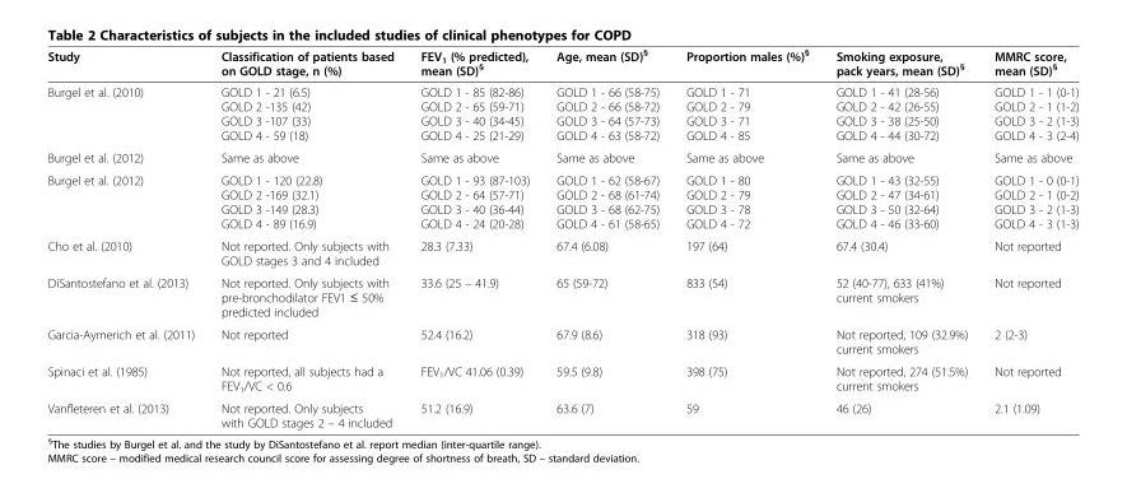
<table><thead><tr><td>Study</td><td>Classification of patients based on GOLD stage, n (%)</td><td>FEV<sub>1</sub> (% predicted), mean (SD)<sup>§</sup></td><td>Age, mean (SD)<sup>§</sup></td><td>Proportion males (%)<sup>§</sup></td><td>Smoking exposure, pack years, mean (SD)<sup>§</sup></td><td>MMRC score, mean (SD)<sup>§</sup></td></tr></thead><tbody><tr><td>Burgel et al. (2010)</td><td>GOLD 1 - 21 (6.5) GOLD 2 -135 (42) GOLD 3 -107 (33) GOLD 4 - 59 (18)</td><td>GOLD 1 - 85 (82-86) GOLD 2 - 65 (59-71) GOLD 3 - 40 (34-45) GOLD 4 - 25 (21-29)</td><td>GOLD 1 - 66 (58-75) GOLD 2 - 66 (58-72) GOLD 3 - 64 (57-73) GOLD 4 - 63 (58-72)</td><td>GOLD 1 - 71 GOLD 2 - 79 GOLD 3 - 71 GOLD 4 - 85</td><td>GOLD 1 - 41 (28-56) GOLD 2 - 42 (26-55) GOLD 3 - 38 (25-50) GOLD 4 - 44 (30-72)</td><td>GOLD 1 - 1 (0-1) GOLD 2 - 1 (1-2) GOLD 3 - 2 (1-3) GOLD 4 - 3 (2-4)</td></tr><tr><td>Burgel et al. (2012)</td><td>Same as above</td><td>Same as above</td><td>Same as above</td><td>Same as above</td><td>Same as above</td><td>Same as above</td></tr><tr><td>Burgel et al. (2012)</td><td>GOLD 1 - 120 (22.8) GOLD 2 -169 (32.1) GOLD 3 -149 (28.3) GOLD 4 - 89 (16.9)</td><td>GOLD 1 - 93 (87-103) GOLD 2 - 64 (57-71) GOLD 3 - 40 (36-44) GOLD 4 - 24 (20-28)</td><td>GOLD 1 - 62 (58-67) GOLD 2 - 68 (61-74) GOLD 3 - 68 (62-75) GOLD 4 - 61 (58-65)</td><td>GOLD 1 - 80 GOLD 2 - 79 GOLD 3 - 78 GOLD 4 - 72</td><td>GOLD 1 - 43 (32-55) GOLD 2 - 47 (34-61) GOLD 3 - 50 (32-64) GOLD 4 - 46 (33-60)</td><td>GOLD 1 - 0 (0-1) GOLD 2 - 1 (0-2) GOLD 3 - 2 (1-3) GOLD 4 - 3 (1-3)</td></tr><tr><td>Cho et al. (2010)</td><td>Not reported. Only subjects with GOLD stages 3 and 4 included</td><td>28.3 (7.33)</td><td>67.4 (6.08)</td><td>197 (64)</td><td>67.4 (30.4)</td><td>Not reported</td></tr><tr><td>DiSantostefano et al. (2013)</td><td>Not reported. Only subjects with pre-bronchodilator FEV1 ≤ 50% predicted included</td><td>33.6 (25 – 41.9)</td><td>65 (59-72)</td><td>833 (54)</td><td>52 (40-77), 633 (41%) current smokers</td><td>Not reported</td></tr><tr><td>Garcia-Aymerich et al. (2011)</td><td>Not reported</td><td>52.4 (16.2)</td><td>67.9 (8.6)</td><td>318 (93)</td><td>Not reported, 109 (32.9%) current smokers</td><td>2 (2-3)</td></tr><tr><td>Spinaci et al. (1985)</td><td>Not reported, all subjects had a FEV<sub>1</sub>/VC &lt; 0.6</td><td>FEV<sub>1</sub>/VC 41.06 (0.39)</td><td>59.5 (9.8)</td><td>398 (75)</td><td>Not reported, 274 (51.5%) current smokers</td><td>Not reported</td></tr><tr><td>Vanfleteren et al. (2013)</td><td>Not reported. Only subjects with GOLD stages 2 – 4 included</td><td>51.2 (16.9)</td><td>63.6 (7)</td><td>59</td><td>46 (26)</td><td>2.1 (1.09)</td></tr></tbody></table>